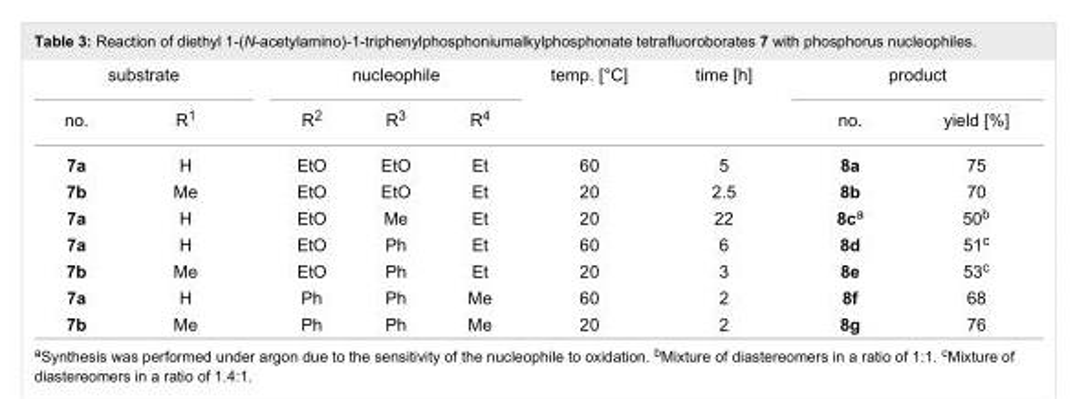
<table><tbody><tr><td colspan="2">substrate</td><td colspan="3">nucleophile</td><td>temp. [°C]</td><td>time [h]</td><td colspan="2">product</td></tr><tr><td>no.</td><td>R<sup>1</sup></td><td>R<sup>2</sup></td><td>R<sup>3</sup></td><td>R<sup>4</sup></td><td colspan="2"></td><td>no.</td><td>yield [%]</td></tr><tr><td>7a</td><td>H</td><td>EtO</td><td>EtO</td><td>Et</td><td>60</td><td>5</td><td>8a</td><td>75</td></tr><tr><td>7b</td><td>Me</td><td>EtO</td><td>EtO</td><td>Et</td><td>20</td><td>2.5</td><td>8b</td><td>70</td></tr><tr><td>7a</td><td>H</td><td>EtO</td><td>Me</td><td>Et</td><td>20</td><td>22</td><td>8c<sup>a</sup></td><td>50<sup>b</sup></td></tr><tr><td>7a</td><td>H</td><td>EtO</td><td>Ph</td><td>Et</td><td>60</td><td>6</td><td>8d</td><td>51<sup>c</sup></td></tr><tr><td>7b</td><td>Me</td><td>EtO</td><td>Ph</td><td>Et</td><td>20</td><td>3</td><td>8e</td><td>53<sup>c</sup></td></tr><tr><td>7a</td><td>H</td><td>Ph</td><td>Ph</td><td>Me</td><td>60</td><td>2</td><td>8f</td><td>68</td></tr><tr><td>7b</td><td>Me</td><td>Ph</td><td>Ph</td><td>Me</td><td>20</td><td>2</td><td>8g</td><td>76</td></tr></tbody></table>